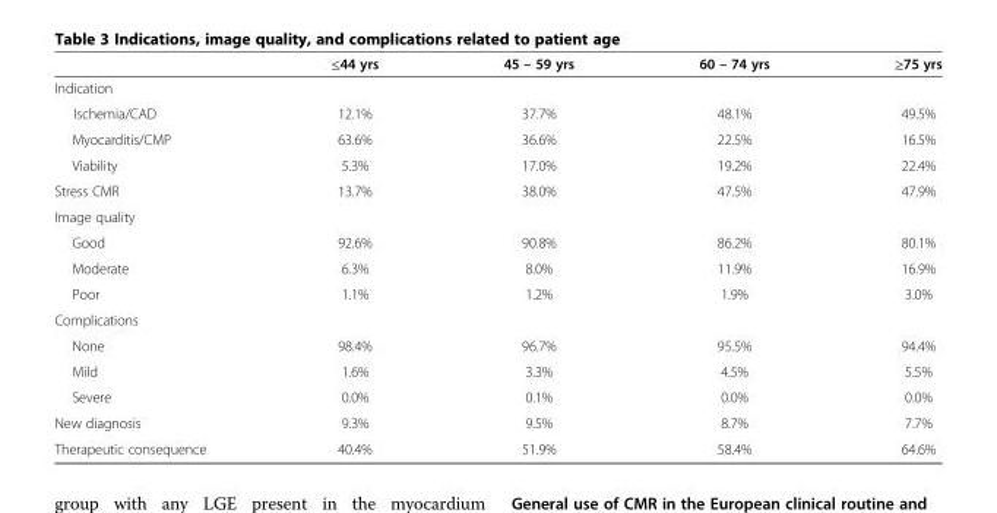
<table><thead><tr><td></td><td>≤44 yrs</td><td>45 – 59 yrs</td><td>60 – 74 yrs</td><td>≥75 yrs</td></tr></thead><tbody><tr><td colspan="5">Indication</td></tr><tr><td>Ischemia/CAD</td><td>12.1%</td><td>37.7%</td><td>48.1%</td><td>49.5%</td></tr><tr><td>Myocarditis/CMP</td><td>63.6%</td><td>36.6%</td><td>22.5%</td><td>16.5%</td></tr><tr><td>Viability</td><td>5.3%</td><td>17.0%</td><td>19.2%</td><td>22.4%</td></tr><tr><td>Stress CMR</td><td>13.7%</td><td>38.0%</td><td>47.5%</td><td>47.9%</td></tr><tr><td colspan="5">Image quality</td></tr><tr><td>Good</td><td>92.6%</td><td>90.8%</td><td>86.2%</td><td>80.1%</td></tr><tr><td>Moderate</td><td>6.3%</td><td>8.0%</td><td>11.9%</td><td>16.9%</td></tr><tr><td>Poor</td><td>1.1%</td><td>1.2%</td><td>1.9%</td><td>3.0%</td></tr><tr><td colspan="5">Complications</td></tr><tr><td>None</td><td>98.4%</td><td>96.7%</td><td>95.5%</td><td>94.4%</td></tr><tr><td>Mild</td><td>1.6%</td><td>3.3%</td><td>4.5%</td><td>5.5%</td></tr><tr><td>Severe</td><td>0.0%</td><td>0.1%</td><td>0.0%</td><td>0.0%</td></tr><tr><td>New diagnosis</td><td>9.3%</td><td>9.5%</td><td>8.7%</td><td>7.7%</td></tr><tr><td>Therapeutic consequence</td><td>40.4%</td><td>51.9%</td><td>58.4%</td><td>64.6%</td></tr></tbody></table>